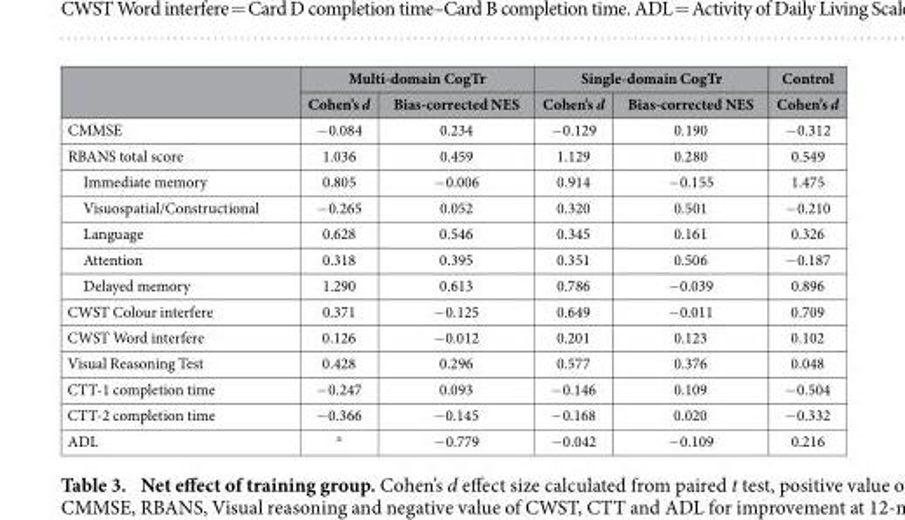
<table><thead><tr><td rowspan="2"></td><td colspan="2">Multi-domain CogTr</td><td colspan="2">Single-domain CogTr</td><td rowspan="2">Control Cohen’s d</td></tr><tr><td>Cohen’s d</td><td>Bias-corrected NES</td><td>Cohen’s d</td><td>Bias-corrected NES</td></tr></thead><tbody><tr><td>CMMSE</td><td>− 0.084</td><td>0.234</td><td>− 0.129</td><td>0.190</td><td>− 0.312</td></tr><tr><td>RBANS total score</td><td>1.036</td><td>0.459</td><td>1.129</td><td>0.280</td><td>0.549</td></tr><tr><td>Immediate memory</td><td>0.805</td><td>− 0.006</td><td>0.914</td><td>− 0.155</td><td>1.475</td></tr><tr><td>Visuospatial/Constructional</td><td>− 0.265</td><td>0.052</td><td>0.320</td><td>0.501</td><td>− 0.210</td></tr><tr><td>Language</td><td>0.628</td><td>0.546</td><td>0.345</td><td>0.161</td><td>0.326</td></tr><tr><td>Attention</td><td>0.318</td><td>0.395</td><td>0.351</td><td>0.506</td><td>− 0.187</td></tr><tr><td>Delayed memory</td><td>1.290</td><td>0.613</td><td>0.786</td><td>− 0.039</td><td>0.896</td></tr><tr><td>CWST Colour interfere</td><td>0.371</td><td>− 0.125</td><td>0.649</td><td>− 0.011</td><td>0.709</td></tr><tr><td>CWST Word interfere</td><td>0.126</td><td>− 0.012</td><td>0.201</td><td>0.123</td><td>0.102</td></tr><tr><td>Visual Reasoning Test</td><td>0.428</td><td>0.296</td><td>0.577</td><td>0.376</td><td>0.048</td></tr><tr><td>CTT-1 completion time</td><td>− 0.247</td><td>0.093</td><td>− 0.146</td><td>0.109</td><td>− 0.504</td></tr><tr><td>CTT-2 completion time</td><td>− 0.366</td><td>− 0.145</td><td>− 0.168</td><td>0.020</td><td>− 0.332</td></tr><tr><td>ADL</td><td><sup>a</sup></td><td>− 0.779</td><td>− 0.042</td><td>− 0.109</td><td>0.216</td></tr></tbody></table>